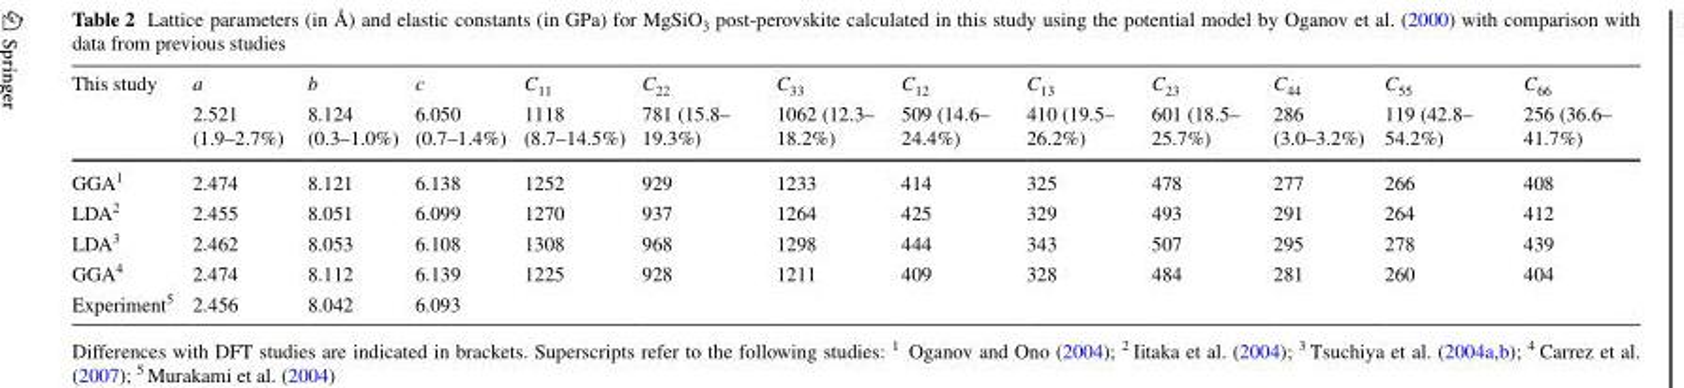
<table><thead><tr><td rowspan="2">This study</td><td rowspan="2">a 2.521 (1.9–2.7%)</td><td rowspan="2">b 8.124 (0.3–1.0%)</td><td rowspan="2">c 6.050 (0.7–1.4%)</td><td rowspan="2">C<sub>11</sub> 1118 (8.7–14.5%)</td><td rowspan="2">C<sub>22</sub> 781 (15.8– 19.3%)</td><td rowspan="2">C<sub>33</sub> 1062 (12.3– 18.2%)</td><td rowspan="2">C<sub>12</sub> 509 (14.6– 24.4%)</td><td rowspan="2">C<sub>13</sub> 410 (19.5– 26.2%)</td><td rowspan="2">C<sub>23</sub> 601 (18.5– 25.7%)</td><td rowspan="2">C<sub>44</sub> 286 (3.0–3.2%)</td><td rowspan="2">C<sub>55</sub> 119 (42.8– 54.2%)</td><td rowspan="2">C<sub>66</sub> 256 (36.6– 41.7%)</td></tr><tr></tr></thead><tbody><tr><td>GGA<sup>1</sup></td><td>2.474</td><td>8.121</td><td>6.138</td><td>1252</td><td>929</td><td>1233</td><td>414</td><td>325</td><td>478</td><td>277</td><td>266</td><td>408</td></tr><tr><td>LDA<sup>2</sup></td><td>2.455</td><td>8.051</td><td>6.099</td><td>1270</td><td>937</td><td>1264</td><td>425</td><td>329</td><td>493</td><td>291</td><td>264</td><td>412</td></tr><tr><td>LDA<sup>3</sup></td><td>2.462</td><td>8.053</td><td>6.108</td><td>1308</td><td>968</td><td>1298</td><td>444</td><td>343</td><td>507</td><td>295</td><td>278</td><td>439</td></tr><tr><td>GGA<sup>4</sup></td><td>2.474</td><td>8.112</td><td>6.139</td><td>1225</td><td>928</td><td>1211</td><td>409</td><td>328</td><td>484</td><td>281</td><td>260</td><td>404</td></tr><tr><td>Experiment<sup>5</sup></td><td>2.456</td><td>8.042</td><td>6.093</td><td></td><td></td><td></td><td></td><td></td><td></td><td></td><td></td><td></td></tr></tbody></table>